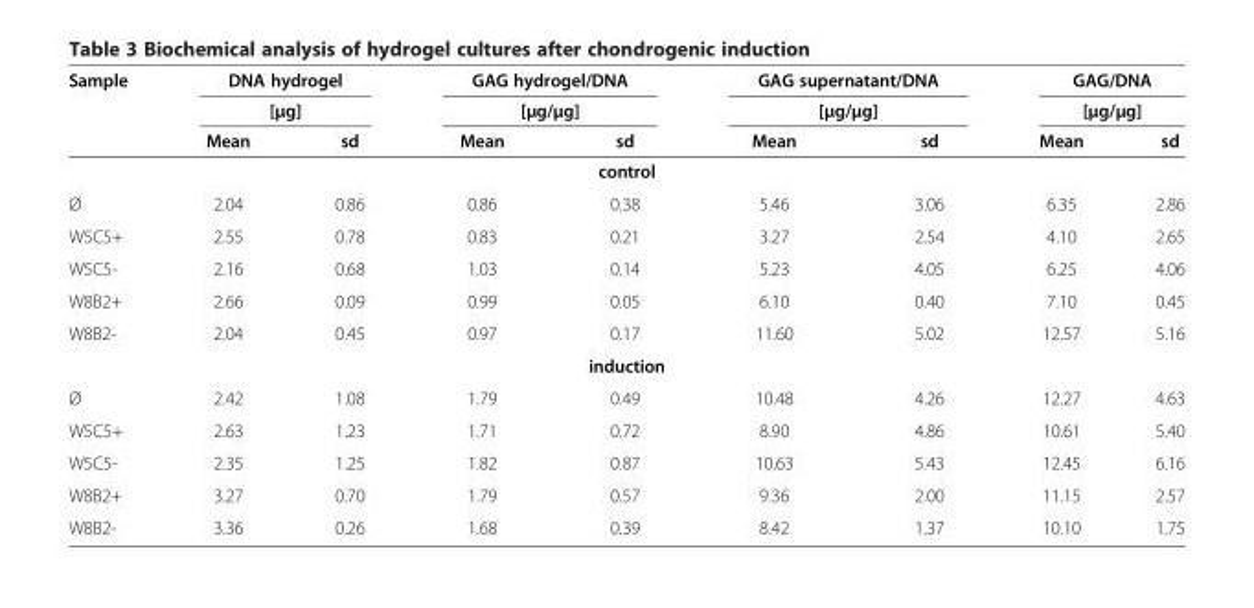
<table><thead><tr><td rowspan="3">Sample</td><td rowspan="2" colspan="2">DNA hydrogel [μg]</td><td rowspan="2" colspan="2">GAG hydrogel/DNA [μg/μg]</td><td rowspan="2" colspan="2">GAG supernatant/DNA [μg/μg]</td><td rowspan="2" colspan="2">GAG/DNA [μg/μg]</td></tr><tr></tr><tr><td>Mean</td><td>sd</td><td>Mean</td><td>sd</td><td>Mean</td><td>sd</td><td>Mean</td><td>sd</td></tr></thead><tbody><tr><td colspan="9">control</td></tr><tr><td>Ø</td><td>2.04</td><td>0.86</td><td>0.86</td><td>0.38</td><td>5.46</td><td>3.06</td><td>6.35</td><td>2.86</td></tr><tr><td>W5C5+</td><td>2.55</td><td>0.78</td><td>0.83</td><td>0.21</td><td>3.27</td><td>2.54</td><td>4.10</td><td>2.65</td></tr><tr><td>W5C5-</td><td>2.16</td><td>0.68</td><td>1.03</td><td>0.14</td><td>5.23</td><td>4.05</td><td>6.25</td><td>4.06</td></tr><tr><td>W8B2+</td><td>2.66</td><td>0.09</td><td>0.99</td><td>0.05</td><td>6.10</td><td>0.40</td><td>7.10</td><td>0.45</td></tr><tr><td>W8B2-</td><td>2.04</td><td>0.45</td><td>0.97</td><td>0.17</td><td>11.60</td><td>5.02</td><td>12.57</td><td>5.16</td></tr><tr><td colspan="9">induction</td></tr><tr><td>Ø</td><td>2.42</td><td>1.08</td><td>1.79</td><td>0.49</td><td>10.48</td><td>4.26</td><td>12.27</td><td>4.63</td></tr><tr><td>W5C5+</td><td>2.63</td><td>1.23</td><td>1.71</td><td>0.72</td><td>8.90</td><td>4.86</td><td>10.61</td><td>5.40</td></tr><tr><td>W5C5-</td><td>2.35</td><td>1.25</td><td>1.82</td><td>0.87</td><td>10.63</td><td>5.43</td><td>12.45</td><td>6.16</td></tr><tr><td>W8B2+</td><td>3.27</td><td>0.70</td><td>1.79</td><td>0.57</td><td>9.36</td><td>2.00</td><td>11.15</td><td>2.57</td></tr><tr><td>W8B2-</td><td>3.36</td><td>0.26</td><td>1.68</td><td>0.39</td><td>8.42</td><td>1.37</td><td>10.10</td><td>1.75</td></tr></tbody></table>